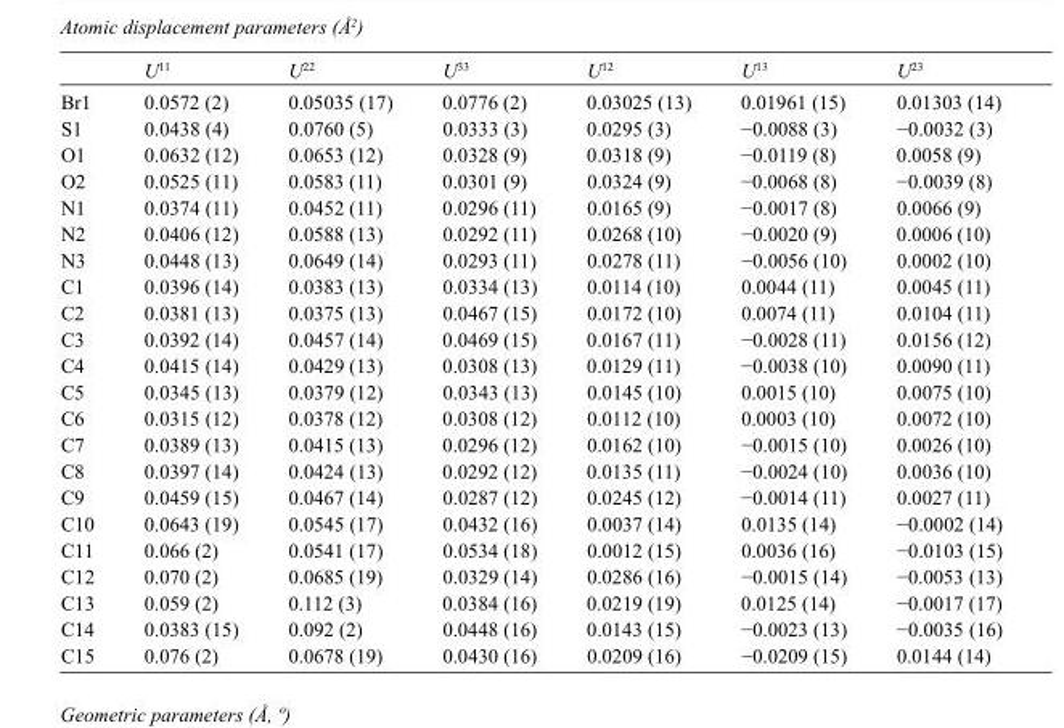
<table><thead><tr><td></td><td>U<sup>11</sup></td><td>U<sup>22</sup></td><td>U<sup>33</sup></td><td>U<sup>12</sup></td><td>U<sup>13</sup></td><td>U<sup>23</sup></td></tr></thead><tbody><tr><td>Br1</td><td>0.0572 (2)</td><td>0.05035 (17)</td><td>0.0776 (2)</td><td>0.03025 (13)</td><td>0.01961 (15)</td><td>0.01303 (14)</td></tr><tr><td>S1</td><td>0.0438 (4)</td><td>0.0760 (5)</td><td>0.0333 (3)</td><td>0.0295 (3)</td><td>−0.0088 (3)</td><td>−0.0032 (3)</td></tr><tr><td>O1</td><td>0.0632 (12)</td><td>0.0653 (12)</td><td>0.0328 (9)</td><td>0.0318 (9)</td><td>−0.0119 (8)</td><td>0.0058 (9)</td></tr><tr><td>O2</td><td>0.0525 (11)</td><td>0.0583 (11)</td><td>0.0301 (9)</td><td>0.0324 (9)</td><td>−0.0068 (8)</td><td>−0.0039 (8)</td></tr><tr><td>N1</td><td>0.0374 (11)</td><td>0.0452 (11)</td><td>0.0296 (11)</td><td>0.0165 (9)</td><td>−0.0017 (8)</td><td>0.0066 (9)</td></tr><tr><td>N2</td><td>0.0406 (12)</td><td>0.0588 (13)</td><td>0.0292 (11)</td><td>0.0268 (10)</td><td>−0.0020 (9)</td><td>0.0006 (10)</td></tr><tr><td>N3</td><td>0.0448 (13)</td><td>0.0649 (14)</td><td>0.0293 (11)</td><td>0.0278 (11)</td><td>−0.0056 (10)</td><td>0.0002 (10)</td></tr><tr><td>C1</td><td>0.0396 (14)</td><td>0.0383 (13)</td><td>0.0334 (13)</td><td>0.0114 (10)</td><td>0.0044 (11)</td><td>0.0045 (11)</td></tr><tr><td>C2</td><td>0.0381 (13)</td><td>0.0375 (13)</td><td>0.0467 (15)</td><td>0.0172 (10)</td><td>0.0074 (11)</td><td>0.0104 (11)</td></tr><tr><td>C3</td><td>0.0392 (14)</td><td>0.0457 (14)</td><td>0.0469 (15)</td><td>0.0167 (11)</td><td>−0.0028 (11)</td><td>0.0156 (12)</td></tr><tr><td>C4</td><td>0.0415 (14)</td><td>0.0429 (13)</td><td>0.0308 (13)</td><td>0.0129 (11)</td><td>−0.0038 (10)</td><td>0.0090 (11)</td></tr><tr><td>C5</td><td>0.0345 (13)</td><td>0.0379 (12)</td><td>0.0343 (13)</td><td>0.0145 (10)</td><td>0.0015 (10)</td><td>0.0075 (10)</td></tr><tr><td>C6</td><td>0.0315 (12)</td><td>0.0378 (12)</td><td>0.0308 (12)</td><td>0.0112 (10)</td><td>0.0003 (10)</td><td>0.0072 (10)</td></tr><tr><td>C7</td><td>0.0389 (13)</td><td>0.0415 (13)</td><td>0.0296 (12)</td><td>0.0162 (10)</td><td>−0.0015 (10)</td><td>0.0026 (10)</td></tr><tr><td>C8</td><td>0.0397 (14)</td><td>0.0424 (13)</td><td>0.0292 (12)</td><td>0.0135 (11)</td><td>−0.0024 (10)</td><td>0.0036 (10)</td></tr><tr><td>C9</td><td>0.0459 (15)</td><td>0.0467 (14)</td><td>0.0287 (12)</td><td>0.0245 (12)</td><td>−0.0014 (11)</td><td>0.0027 (11)</td></tr><tr><td>C10</td><td>0.0643 (19)</td><td>0.0545 (17)</td><td>0.0432 (16)</td><td>0.0037 (14)</td><td>0.0135 (14)</td><td>−0.0002 (14)</td></tr><tr><td>C11</td><td>0.066 (2)</td><td>0.0541 (17)</td><td>0.0534 (18)</td><td>0.0012 (15)</td><td>0.0036 (16)</td><td>−0.0103 (15)</td></tr><tr><td>C12</td><td>0.070 (2)</td><td>0.0685 (19)</td><td>0.0329 (14)</td><td>0.0286 (16)</td><td>−0.0015 (14)</td><td>−0.0053 (13)</td></tr><tr><td>C13</td><td>0.059 (2)</td><td>0.112 (3)</td><td>0.0384 (16)</td><td>0.0219 (19)</td><td>0.0125 (14)</td><td>−0.0017 (17)</td></tr><tr><td>C14</td><td>0.0383 (15)</td><td>0.092 (2)</td><td>0.0448 (16)</td><td>0.0143 (15)</td><td>−0.0023 (13)</td><td>−0.0035 (16)</td></tr><tr><td>C15</td><td>0.076 (2)</td><td>0.0678 (19)</td><td>0.0430 (16)</td><td>0.0209 (16)</td><td>−0.0209 (15)</td><td>0.0144 (14)</td></tr></tbody></table>